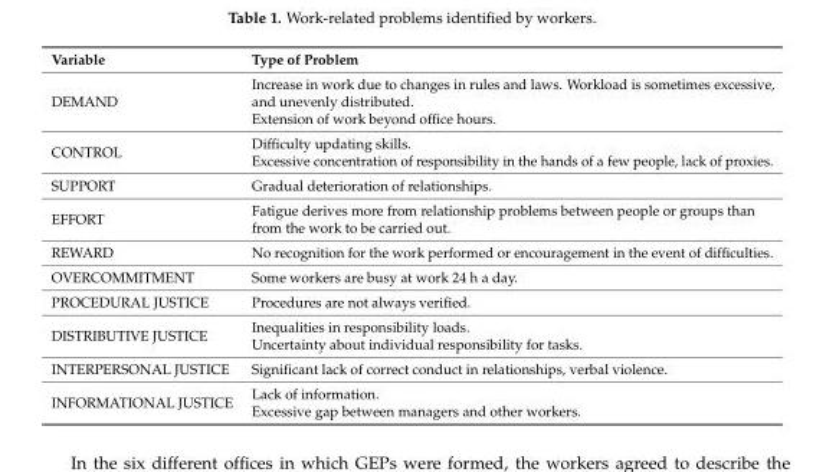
<table><thead><tr><td>Variable</td><td>Type of Problem</td></tr></thead><tbody><tr><td>DEMAND</td><td>Increase in work due to changes in rules and laws. Workload is sometimes excessive, and unevenly distributed. Extension of work beyond office hours.</td></tr><tr><td>CONTROL</td><td>Difficulty updating skills. Excessive concentration of responsibility in the hands of a few people, lack of proxies.</td></tr><tr><td>SUPPORT</td><td>Gradual deterioration of relationships.</td></tr><tr><td>EFFORT</td><td>Fatigue derives more from relationship problems between people or groups than from the work to be carried out.</td></tr><tr><td>REWARD</td><td>No recognition for the work performed or encouragement in the event of difficulties.</td></tr><tr><td>OVERCOMMITMENT</td><td>Some workers are busy at work 24 h a day.</td></tr><tr><td>PROCEDURAL JUSTICE</td><td>Procedures are not always verified.</td></tr><tr><td>DISTRIBUTIVE JUSTICE</td><td>Inequalities in responsibility loads. Uncertainty about individual responsibility for tasks.</td></tr><tr><td>INTERPERSONAL JUSTICE</td><td>Significant lack of correct conduct in relationships, verbal violence.</td></tr><tr><td>INFORMATIONAL JUSTICE</td><td>Lack of information. Excessive gap between managers and other workers.</td></tr></tbody></table>